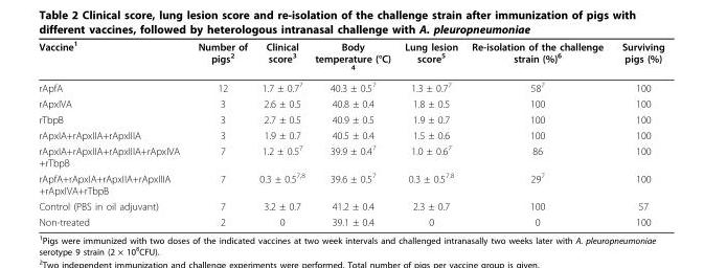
<table><thead><tr><td>Vaccine<sup>1</sup></td><td>Number of pigs<sup>2</sup></td><td>Clinical score<sup>3</sup></td><td>Body temperature (°C) <sup>4</sup></td><td>Lung lesion score<sup>5</sup></td><td>Re-isolation of the challenge strain (%)<sup>6</sup></td><td>Surviving pigs (%)</td></tr></thead><tbody><tr><td>rApfA</td><td>12</td><td>1.7 ± 0.7<sup>7</sup></td><td>40.3 ± 0.5<sup>7</sup></td><td>1.3 ± 0.7<sup>7</sup></td><td>58<sup>7</sup></td><td>100</td></tr><tr><td>rApxIVA</td><td>3</td><td>2.6 ± 0.5</td><td>40.8 ± 0.4</td><td>1.8 ± 0.5</td><td>100</td><td>100</td></tr><tr><td>rTbpB</td><td>3</td><td>2.7 ± 0.5</td><td>40.9 ± 0.5</td><td>1.9 ± 0.7</td><td>100</td><td>100</td></tr><tr><td>rApxIA+rApxIIA+rApxIIIA</td><td>3</td><td>1.9 ± 0.7</td><td>40.5 ± 0.4</td><td>1.5 ± 0.6</td><td>100</td><td>100</td></tr><tr><td>rApxIA+rApxIIA+rApxIIIA+rApxIVA +rTbpB</td><td>7</td><td>1.2 ± 0.5<sup>7</sup></td><td>39.9 ± 0.4<sup>7</sup></td><td>1.0 ± 0.6<sup>7</sup></td><td>86</td><td>100</td></tr><tr><td>rApfA+rApxIA+rApxIIA+rApxIIIA +rApxIVA+rTbpB</td><td>7</td><td>0.3 ± 0.5<sup>7,8</sup></td><td>39.6 ± 0.5<sup>7</sup></td><td>0.3 ± 0.5<sup>7,8</sup></td><td>29<sup>7</sup></td><td>100</td></tr><tr><td>Control (PBS in oil adjuvant)</td><td>7</td><td>3.2 ± 0.7</td><td>41.2 ± 0.4</td><td>2.3 ± 0.7</td><td>100</td><td>57</td></tr><tr><td>Non-treated</td><td>2</td><td>0</td><td>39.1 ± 0.4</td><td>0</td><td>0</td><td>100</td></tr></tbody></table>